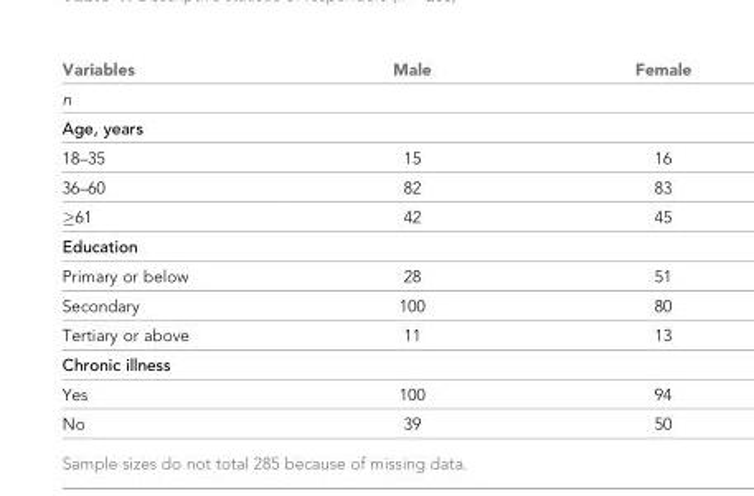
<table><thead><tr><td>Variables</td><td>Male</td><td>Female</td></tr></thead><tbody><tr><td colspan="3">n</td></tr><tr><td colspan="3">Age, years</td></tr><tr><td>18–35</td><td>15</td><td>16</td></tr><tr><td>36–60</td><td>82</td><td>83</td></tr><tr><td>≥61</td><td>42</td><td>45</td></tr><tr><td colspan="3">Education</td></tr><tr><td>Primary or below</td><td>28</td><td>51</td></tr><tr><td>Secondary</td><td>100</td><td>80</td></tr><tr><td>Tertiary or above</td><td>11</td><td>13</td></tr><tr><td colspan="3">Chronic illness</td></tr><tr><td>Yes</td><td>100</td><td>94</td></tr><tr><td>No</td><td>39</td><td>50</td></tr></tbody></table>